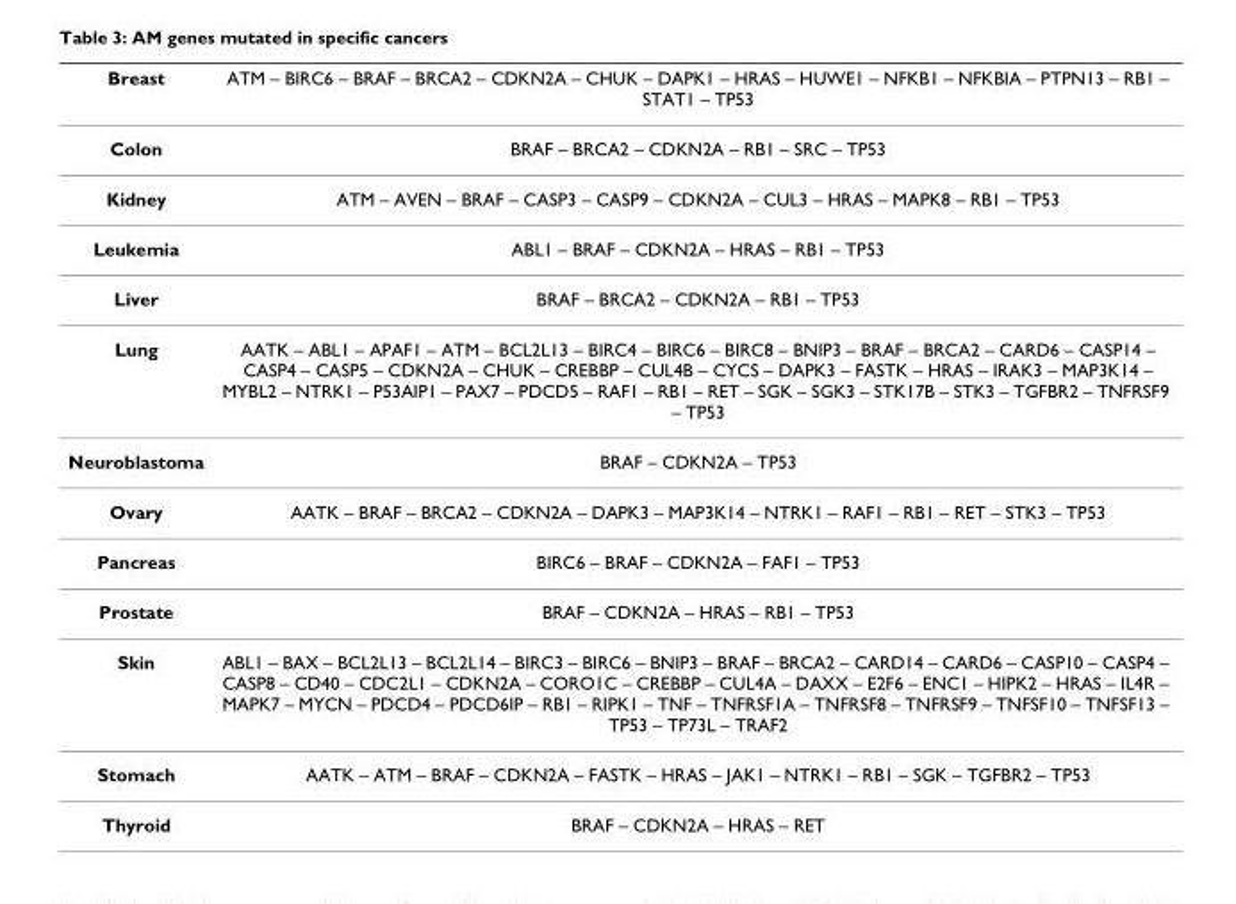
<table><thead><tr><td>Breast</td><td>ATM – BIRC6 – BRAF – BRCA2 – CDKN2A – CHUK – DAPK1 – HRAS – HUWE1 – NFKB1 – NFKBIA – PTPN13 – RB1 – STAT1 – TP53</td></tr></thead><tbody><tr><td>Colon</td><td>BRAF – BRCA2 – CDKN2A – RB1 – SRC – TP53</td></tr><tr><td>Kidney</td><td>ATM – AVEN – BRAF – CASP3 – CASP9 – CDKN2A – CUL3 – HRAS – MAPK8 – RB1 – TP53</td></tr><tr><td>Leukemia</td><td>ABL1 – BRAF – CDKN2A – HRAS – RB1 – TP53</td></tr><tr><td>Liver</td><td>BRAF – BRCA2 – CDKN2A – RB1 – TP53</td></tr><tr><td>Lung</td><td>AATK – ABL1 – APAF1 – ATM – BCL2L13 – BIRC4 – BIRC6 – BIRC8 – BNIP3 – BRAF – BRCA2 – CARD6 – CASP14 – CASP4 – CASP5 – CDKN2A – CHUK – CREBBP – CUL4B – CYCS – DAPK3 – FASTK – HRAS – IRAK3 – MAP3K14 – MYBL2 – NTRK1 – P53AIP1 – PAX7 – PDCD5 – RAF1 – RB1 – RET – SGK – SGK3 – STK17B – STK3 – TGFBR2 – TNFRSF9 – TP53</td></tr><tr><td>Neuroblastoma</td><td>BRAF – CDKN2A – TP53</td></tr><tr><td>Ovary</td><td>AATK – BRAF – BRCA2 – CDKN2A – DAPK3 – MAP3K14 – NTRK1 – RAF1 – RB1 – RET – STK3 – TP53</td></tr><tr><td>Pancreas</td><td>BIRC6 – BRAF – CDKN2A – FAF1 – TP53</td></tr><tr><td>Prostate</td><td>BRAF – CDKN2A – HRAS – RB1 – TP53</td></tr><tr><td>Skin</td><td>ABL1 – BAX – BCL2L13 – BCL2L14 – BIRC3 – BIRC6 – BNIP3 – BRAF – BRCA2 – CARD14 – CARD6 – CASP10 – CASP4 – CASP8 – CD40 – CDC2L1 – CDKN2A – CORO1C – CREBBP – CUL4A – DAXX – E2F6 – ENC1 – HIPK2 – HRAS – IL4R – MAPK7 – MYCN – PDCD4 – PDCD6IP – RB1 – RIPK1 – TNF – TNFRSF1A – TNFRSF8 – TNFRSF9 – TNFSF10 – TNFSF13 – TP53 – TP73L – TRAF2</td></tr><tr><td>Stomach</td><td>AATK – ATM – BRAF – CDKN2A – FASTK – HRAS – JAK1 – NTRK1 – RB1 – SGK – TGFBR2 – TP53</td></tr><tr><td>Thyroid</td><td>BRAF – CDKN2A – HRAS – RET</td></tr></tbody></table>